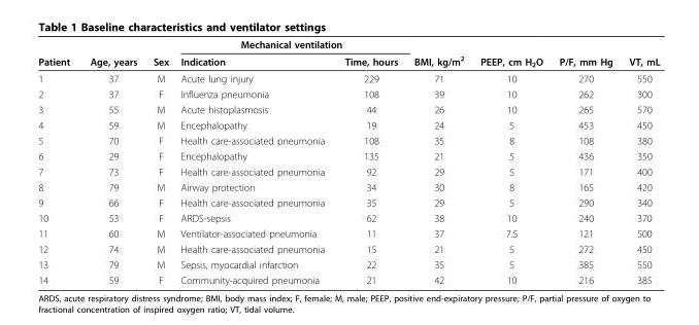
<table><thead><tr><td rowspan="2">Patient</td><td rowspan="2">Age, years</td><td rowspan="2">Sex</td><td colspan="2">Mechanical ventilation</td><td rowspan="2">BMI, kg/m<sup>2</sup></td><td rowspan="2">PEEP, cm H<sub>2</sub>O</td><td rowspan="2">P/F, mm Hg</td><td rowspan="2">VT, mL</td></tr><tr><td>Indication</td><td>Time, hours</td></tr></thead><tbody><tr><td>1</td><td>37</td><td>M</td><td>Acute lung injury</td><td>229</td><td>71</td><td>10</td><td>270</td><td>550</td></tr><tr><td>2</td><td>37</td><td>F</td><td>Influenza pneumonia</td><td>108</td><td>39</td><td>10</td><td>262</td><td>300</td></tr><tr><td>3</td><td>55</td><td>M</td><td>Acute histoplasmosis</td><td>44</td><td>26</td><td>10</td><td>265</td><td>570</td></tr><tr><td>4</td><td>59</td><td>M</td><td>Encephalopathy</td><td>19</td><td>24</td><td>5</td><td>453</td><td>450</td></tr><tr><td>5</td><td>70</td><td>F</td><td>Health care-associated pneumonia</td><td>108</td><td>35</td><td>8</td><td>108</td><td>380</td></tr><tr><td>6</td><td>29</td><td>F</td><td>Encephalopathy</td><td>135</td><td>21</td><td>5</td><td>436</td><td>350</td></tr><tr><td>7</td><td>73</td><td>F</td><td>Health care-associated pneumonia</td><td>92</td><td>29</td><td>5</td><td>171</td><td>400</td></tr><tr><td>8</td><td>79</td><td>M</td><td>Airway protection</td><td>34</td><td>30</td><td>8</td><td>165</td><td>420</td></tr><tr><td>9</td><td>66</td><td>F</td><td>Health care-associated pneumonia</td><td>35</td><td>29</td><td>5</td><td>290</td><td>340</td></tr><tr><td>10</td><td>53</td><td>F</td><td>ARDS-sepsis</td><td>62</td><td>38</td><td>10</td><td>240</td><td>370</td></tr><tr><td>11</td><td>60</td><td>M</td><td>Ventilator-associated pneumonia</td><td>11</td><td>37</td><td>7.5</td><td>121</td><td>500</td></tr><tr><td>12</td><td>74</td><td>M</td><td>Health care-associated pneumonia</td><td>15</td><td>21</td><td>5</td><td>272</td><td>450</td></tr><tr><td>13</td><td>79</td><td>M</td><td>Sepsis, myocardial infarction</td><td>22</td><td>35</td><td>5</td><td>385</td><td>550</td></tr><tr><td>14</td><td>59</td><td>F</td><td>Community-acquired pneumonia</td><td>21</td><td>42</td><td>10</td><td>216</td><td>385</td></tr></tbody></table>